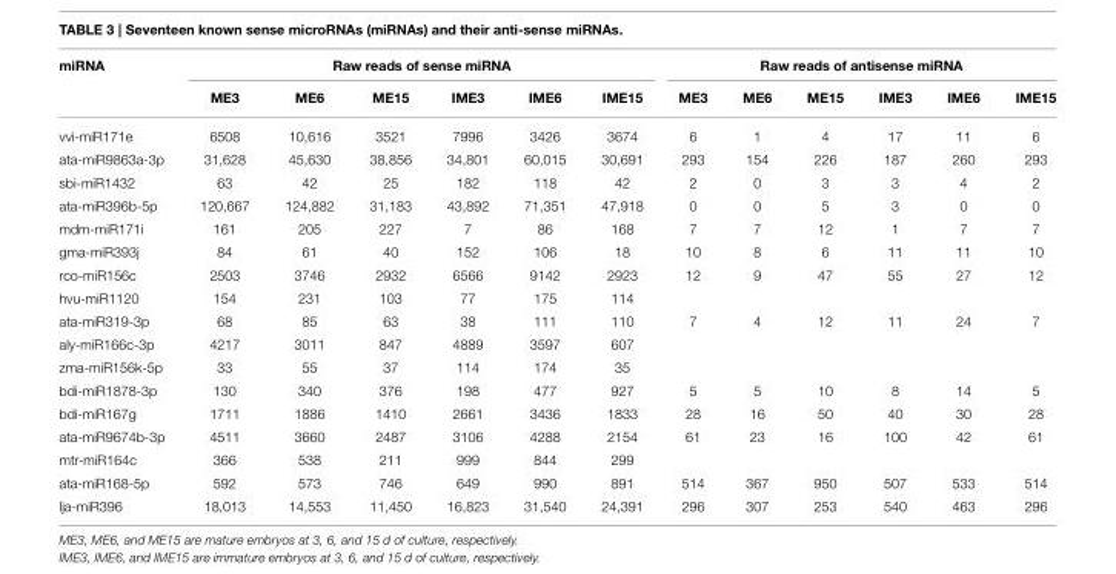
<table><thead><tr><td rowspan="2">miRNA</td><td colspan="6">Raw reads of sense miRNA</td><td colspan="6">Raw reads of antisense miRNA</td></tr><tr><td>ME3</td><td>ME6</td><td>ME15</td><td>IME3</td><td>IME6</td><td>IME15</td><td>ME3</td><td>ME6</td><td>ME15</td><td>IME3</td><td>IME6</td><td>IME15</td></tr></thead><tbody><tr><td>vvi-miR171e</td><td>6508</td><td>10,616</td><td>3521</td><td>7996</td><td>3426</td><td>3674</td><td>6</td><td>1</td><td>4</td><td>17</td><td>11</td><td>6</td></tr><tr><td>ata-miR9863a-3p</td><td>31,628</td><td>45,630</td><td>38,856</td><td>34,801</td><td>60,015</td><td>30,691</td><td>293</td><td>154</td><td>226</td><td>187</td><td>260</td><td>293</td></tr><tr><td>sbi-miR1432</td><td>63</td><td>42</td><td>25</td><td>182</td><td>118</td><td>42</td><td>2</td><td>0</td><td>3</td><td>3</td><td>4</td><td>2</td></tr><tr><td>ata-miR396b-5p</td><td>120,667</td><td>124,882</td><td>31,183</td><td>43,892</td><td>71,351</td><td>47,918</td><td>0</td><td>0</td><td>5</td><td>3</td><td>0</td><td>0</td></tr><tr><td>mdm-miR171i</td><td>161</td><td>205</td><td>227</td><td>7</td><td>86</td><td>168</td><td>7</td><td>7</td><td>12</td><td>1</td><td>7</td><td>7</td></tr><tr><td>gma-miR393j</td><td>84</td><td>61</td><td>40</td><td>152</td><td>106</td><td>18</td><td>10</td><td>8</td><td>6</td><td>11</td><td>11</td><td>10</td></tr><tr><td>rco-miR156c</td><td>2503</td><td>3746</td><td>2932</td><td>6566</td><td>9142</td><td>2923</td><td>12</td><td>9</td><td>47</td><td>55</td><td>27</td><td>12</td></tr><tr><td>hvu-miR1120</td><td>154</td><td>231</td><td>103</td><td>77</td><td>175</td><td>114</td><td></td><td></td><td></td><td></td><td></td><td></td></tr><tr><td>ata-miR319-3p</td><td>68</td><td>85</td><td>63</td><td>38</td><td>111</td><td>110</td><td>7</td><td>4</td><td>12</td><td>11</td><td>24</td><td>7</td></tr><tr><td>aly-miR166c-3p</td><td>4217</td><td>3011</td><td>847</td><td>4889</td><td>3597</td><td>607</td><td></td><td></td><td></td><td></td><td></td><td></td></tr><tr><td>zma-miR156k-5p</td><td>33</td><td>55</td><td>37</td><td>114</td><td>174</td><td>35</td><td></td><td></td><td></td><td></td><td></td><td></td></tr><tr><td>bdi-miR1878-3p</td><td>130</td><td>340</td><td>376</td><td>198</td><td>477</td><td>927</td><td>5</td><td>5</td><td>10</td><td>8</td><td>14</td><td>5</td></tr><tr><td>bdi-miR167g</td><td>1711</td><td>1886</td><td>1410</td><td>2661</td><td>3436</td><td>1833</td><td>28</td><td>16</td><td>50</td><td>40</td><td>30</td><td>28</td></tr><tr><td>ata-miR9674b-3p</td><td>4511</td><td>3660</td><td>2487</td><td>3106</td><td>4288</td><td>2154</td><td>61</td><td>23</td><td>16</td><td>100</td><td>42</td><td>61</td></tr><tr><td>mtr-miR164c</td><td>366</td><td>538</td><td>211</td><td>999</td><td>844</td><td>299</td><td></td><td></td><td></td><td></td><td></td><td></td></tr><tr><td>ata-miR168-5p</td><td>592</td><td>573</td><td>746</td><td>649</td><td>990</td><td>891</td><td>514</td><td>367</td><td>950</td><td>507</td><td>533</td><td>514</td></tr><tr><td>lja-miR396</td><td>18,013</td><td>14,553</td><td>11,450</td><td>16,823</td><td>31,540</td><td>24,391</td><td>296</td><td>307</td><td>253</td><td>540</td><td>463</td><td>296</td></tr></tbody></table>